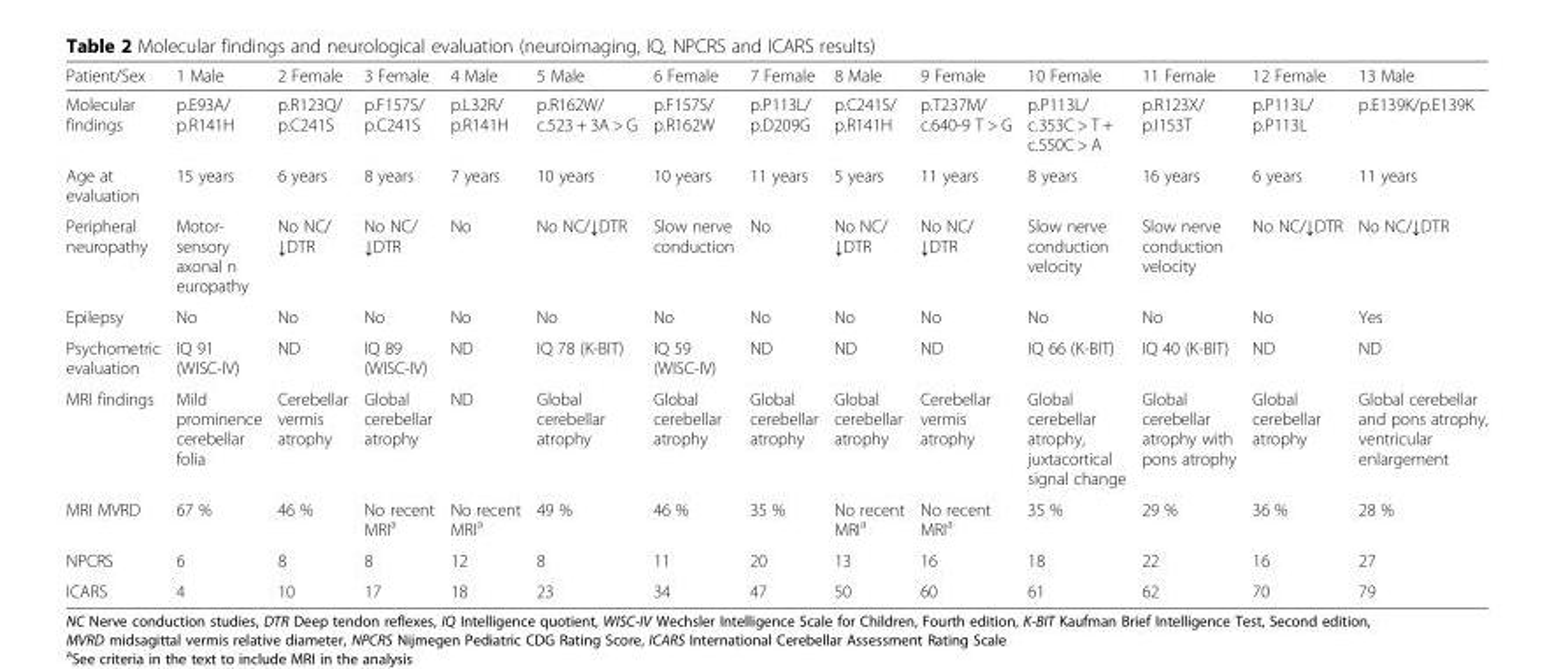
<table><thead><tr><td>Patient/Sex</td><td>1 Male</td><td>2 Female</td><td>3 Female</td><td>4 Male</td><td>5 Male</td><td>6 Female</td><td>7 Female</td><td>8 Male</td><td>9 Female</td><td>10 Female</td><td>11 Female</td><td>12 Female</td><td>13 Male</td></tr></thead><tbody><tr><td>Molecular findings</td><td>p.E93A/ p.R141H</td><td>p.R123Q/ p.C241S</td><td>p.F157S/ p.C241S</td><td>p.L32R/ p.R141H</td><td>p.R162W/ c.523 + 3A &gt; G</td><td>p.F157S/ p.R162W</td><td>p.P113L/ p.D209G</td><td>p.C241S/ p.R141H</td><td>p.T237M/ c.640-9 T &gt; G</td><td>p.P113L/ c.353C &gt; T + c.550C &gt; A</td><td>p.R123X/ p.I153T</td><td>p.P113L/ p.P113L</td><td>p.E139K/p.E139K</td></tr><tr><td>Age at evaluation</td><td>15 years</td><td>6 years</td><td>8 years</td><td>7 years</td><td>10 years</td><td>10 years</td><td>11 years</td><td>5 years</td><td>11 years</td><td>8 years</td><td>16 years</td><td>6 years</td><td>11 years</td></tr><tr><td>Peripheral neuropathy</td><td>Motor- sensory axonal n europathy</td><td>No NC/ ↓DTR</td><td>No NC/ ↓DTR</td><td>No</td><td>No NC/↓DTR</td><td>Slow nerve conduction</td><td>No</td><td>No NC/ ↓DTR</td><td>No NC/ ↓DTR</td><td>Slow nerve conduction velocity</td><td>Slow nerve conduction velocity</td><td>No NC/↓DTR</td><td>No NC/↓DTR</td></tr><tr><td>Epilepsy</td><td>No</td><td>No</td><td>No</td><td>No</td><td>No</td><td>No</td><td>No</td><td>No</td><td>No</td><td>No</td><td>No</td><td>No</td><td>Yes</td></tr><tr><td>Psychometric evaluation</td><td>IQ 91 (WISC-IV)</td><td>ND</td><td>IQ 89 (WISC-IV)</td><td>ND</td><td>IQ 78 (K-BIT)</td><td>IQ 59 (WISC-IV)</td><td>ND</td><td>ND</td><td>ND</td><td>IQ 66 (K-BIT)</td><td>IQ 40 (K-BIT)</td><td>ND</td><td>ND</td></tr><tr><td>MRI findings</td><td>Mild prominence cerebellar folia</td><td>Cerebellar vermis atrophy</td><td>Global cerebellar atrophy</td><td>ND</td><td>Global cerebellar atrophy</td><td>Global cerebellar atrophy</td><td>Global cerebellar atrophy</td><td>Global cerebellar atrophy</td><td>Cerebellar vermis atrophy</td><td>Global cerebellar atrophy, juxtacortical signal change</td><td>Global cerebellar atrophy with pons atrophy</td><td>Global cerebellar atrophy</td><td>Global cerebellar and pons atrophy, ventricular enlargement</td></tr><tr><td>MRI MVRD</td><td>67 %</td><td>46 %</td><td>No recent MRI<sup>a</sup></td><td>No recent MRI<sup>a</sup></td><td>49 %</td><td>46 %</td><td>35 %</td><td>No recent MRI<sup>a</sup></td><td>No recent MRI<sup>a</sup></td><td>35 %</td><td>29 %</td><td>36 %</td><td>28 %</td></tr><tr><td>NPCRS</td><td>6</td><td>8</td><td>8</td><td>12</td><td>8</td><td>11</td><td>20</td><td>13</td><td>16</td><td>18</td><td>22</td><td>16</td><td>27</td></tr><tr><td>ICARS</td><td>4</td><td>10</td><td>17</td><td>18</td><td>23</td><td>34</td><td>47</td><td>50</td><td>60</td><td>61</td><td>62</td><td>70</td><td>79</td></tr></tbody></table>